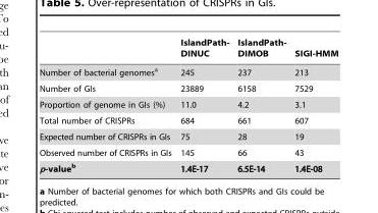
<table><thead><tr><td></td><td>IslandPath- DINUC</td><td>IslandPath- DIMOB</td><td>SIGI-HMM</td></tr></thead><tbody><tr><td>Number of bacterial genomes<sup>a</sup></td><td>245</td><td>237</td><td>213</td></tr><tr><td>Number of GIs</td><td>23889</td><td>6158</td><td>7529</td></tr><tr><td>Proportion of genome in GIs (%)</td><td>11.0</td><td>4.2</td><td>3.1</td></tr><tr><td>Total number of CRISPRs</td><td>684</td><td>661</td><td>607</td></tr><tr><td>Expected number of CRISPRs in GIs</td><td>75</td><td>28</td><td>19</td></tr><tr><td>Observed number of CRISPRs in GIs</td><td>145</td><td>66</td><td>43</td></tr><tr><td>p-value<sup>b</sup></td><td>1.4E-17</td><td>6.5E-14</td><td>1.4E-08</td></tr></tbody></table>